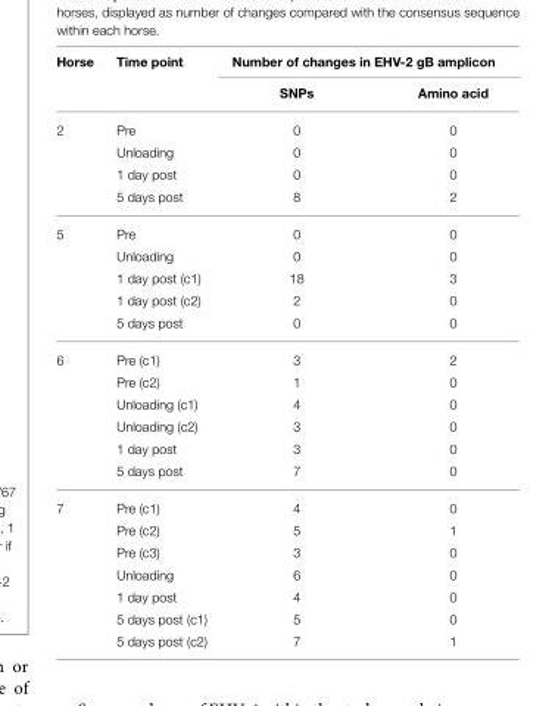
<table><thead><tr><td rowspan="2">Horse</td><td rowspan="2">Time point</td><td colspan="2">Number of changes in EHV-2 gB amplicon</td></tr><tr><td>SNPs</td><td>Amino acid</td></tr></thead><tbody><tr><td rowspan="4">2</td><td>Pre</td><td>0</td><td>0</td></tr><tr><td>Unloading</td><td>0</td><td>0</td></tr><tr><td>1 day post</td><td>0</td><td>0</td></tr><tr><td>5 days post</td><td>8</td><td>2</td></tr><tr><td rowspan="5">5</td><td>Pre</td><td>0</td><td>0</td></tr><tr><td>Unloading</td><td>0</td><td>0</td></tr><tr><td>1 day post (c1)</td><td>18</td><td>3</td></tr><tr><td>1 day post (c2)</td><td>2</td><td>0</td></tr><tr><td>5 days post</td><td>0</td><td>0</td></tr><tr><td rowspan="6">6</td><td>Pre (c1)</td><td>3</td><td>2</td></tr><tr><td>Pre (c2)</td><td>1</td><td>0</td></tr><tr><td>Unloading (c1)</td><td>4</td><td>0</td></tr><tr><td>Unloading (c2)</td><td>3</td><td>0</td></tr><tr><td>1 day post</td><td>3</td><td>0</td></tr><tr><td>5 days post</td><td>7</td><td>0</td></tr><tr><td rowspan="7">7</td><td>Pre (c1)</td><td>4</td><td>0</td></tr><tr><td>Pre (c2)</td><td>5</td><td>1</td></tr><tr><td>Pre (c3)</td><td>3</td><td>0</td></tr><tr><td>Unloading</td><td>6</td><td>0</td></tr><tr><td>1 day post</td><td>4</td><td>0</td></tr><tr><td>5 days post (c1)</td><td>5</td><td>0</td></tr><tr><td>5 days post (c2)</td><td>7</td><td>1</td></tr></tbody></table>